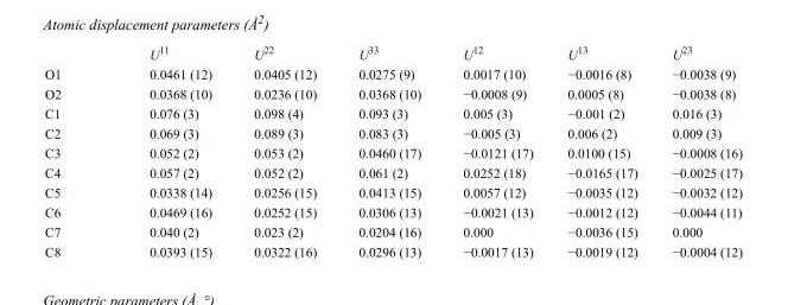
<table><thead><tr><td></td><td>U<sup>11</sup></td><td>U<sup>22</sup></td><td>U<sup>33</sup></td><td>U<sup>12</sup></td><td>U<sup>13</sup></td><td>U<sup>23</sup></td></tr></thead><tbody><tr><td>O1</td><td>0.0461 (12)</td><td>0.0405 (12)</td><td>0.0275 (9)</td><td>0.0017 (10)</td><td>−0.0016 (8)</td><td>−0.0038 (9)</td></tr><tr><td>O2</td><td>0.0368 (10)</td><td>0.0236 (10)</td><td>0.0368 (10)</td><td>−0.0008 (9)</td><td>0.0005 (8)</td><td>−0.0038 (8)</td></tr><tr><td>C1</td><td>0.076 (3)</td><td>0.098 (4)</td><td>0.093 (3)</td><td>0.005 (3)</td><td>−0.001 (2)</td><td>0.016 (3)</td></tr><tr><td>C2</td><td>0.069 (3)</td><td>0.089 (3)</td><td>0.083 (3)</td><td>−0.005 (3)</td><td>0.006 (2)</td><td>0.009 (3)</td></tr><tr><td>C3</td><td>0.052 (2)</td><td>0.053 (2)</td><td>0.0460 (17)</td><td>−0.0121 (17)</td><td>0.0100 (15)</td><td>−0.0008 (16)</td></tr><tr><td>C4</td><td>0.057 (2)</td><td>0.052 (2)</td><td>0.061 (2)</td><td>0.0252 (18)</td><td>−0.0165 (17)</td><td>−0.0025 (17)</td></tr><tr><td>C5</td><td>0.0338 (14)</td><td>0.0256 (15)</td><td>0.0413 (15)</td><td>0.0057 (12)</td><td>−0.0035 (12)</td><td>−0.0032 (12)</td></tr><tr><td>C6</td><td>0.0469 (16)</td><td>0.0252 (15)</td><td>0.0306 (13)</td><td>−0.0021 (13)</td><td>−0.0012 (12)</td><td>−0.0044 (11)</td></tr><tr><td>C7</td><td>0.040 (2)</td><td>0.023 (2)</td><td>0.0204 (16)</td><td>0.000</td><td>−0.0036 (15)</td><td>0.000</td></tr><tr><td>C8</td><td>0.0393 (15)</td><td>0.0322 (16)</td><td>0.0296 (13)</td><td>−0.0017 (13)</td><td>−0.0019 (12)</td><td>−0.0004 (12)</td></tr></tbody></table>